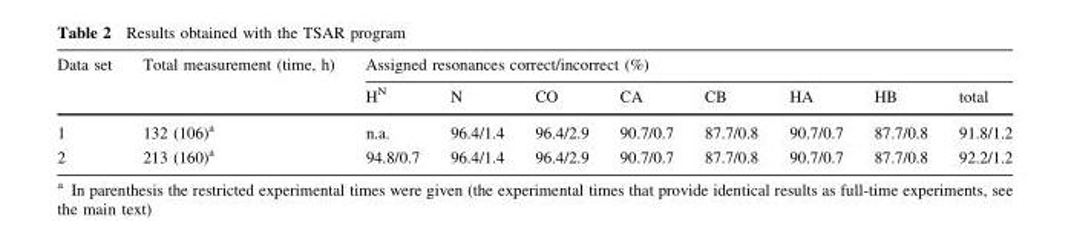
<table><thead><tr><td rowspan="2">Data set</td><td rowspan="2">Total measurement (time, h)</td><td colspan="8">Assigned resonances correct/incorrect (%)</td></tr><tr><td>H<sup>N</sup></td><td>N</td><td>CO</td><td>CA</td><td>CB</td><td>HA</td><td>HB</td><td>total</td></tr></thead><tbody><tr><td>1</td><td>132 (106)<sup>a</sup></td><td>n.a.</td><td>96.4/1.4</td><td>96.4/2.9</td><td>90.7/0.7</td><td>87.7/0.8</td><td>90.7/0.7</td><td>87.7/0.8</td><td>91.8/1.2</td></tr><tr><td>2</td><td>213 (160)<sup>a</sup></td><td>94.8/0.7</td><td>96.4/1.4</td><td>96.4/2.9</td><td>90.7/0.7</td><td>87.7/0.8</td><td>90.7/0.7</td><td>87.7/0.8</td><td>92.2/1.2</td></tr></tbody></table>